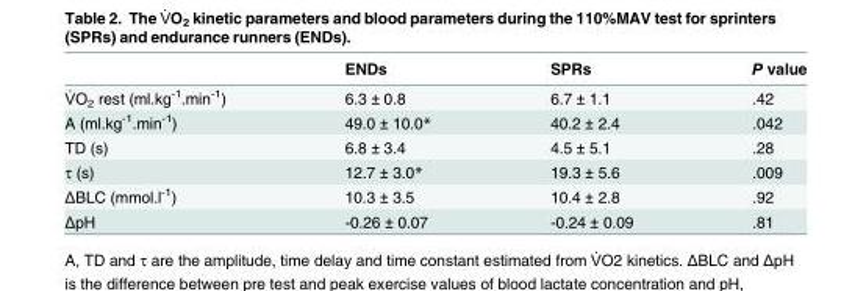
<table><thead><tr><td></td><td>ENDs</td><td>SPRs</td><td>P value</td></tr></thead><tbody><tr><td>V̇O<sub>2</sub> rest (ml.kg<sup>-1</sup>.min<sup>-1</sup>)</td><td>6.3 ± 0.8</td><td>6.7 ± 1.1</td><td>.42</td></tr><tr><td>A (ml.kg<sup>-1</sup>.min<sup>-1</sup>)</td><td>49.0 ± 10.0*</td><td>40.2 ± 2.4</td><td>.042</td></tr><tr><td>TD (s)</td><td>6.8 ± 3.4</td><td>4.5 ± 5.1</td><td>.28</td></tr><tr><td>τ (s)</td><td>12.7 ± 3.0*</td><td>19.3 ± 5.6</td><td>.009</td></tr><tr><td>ΔBLC (mmol.l-1)</td><td>10.3 ± 3.5</td><td>10.4 ± 2.8</td><td>.92</td></tr><tr><td>ΔpH</td><td>-0.26 ± 0.07</td><td>-0.24 ± 0.09</td><td>.81</td></tr></tbody></table>